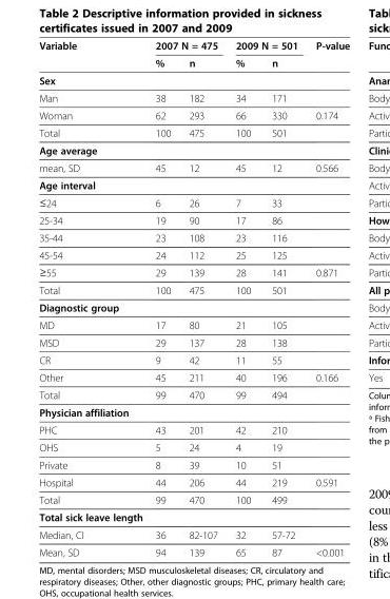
<table><thead><tr><td rowspan="2">Variable</td><td colspan="2">2007 N = 475</td><td colspan="2">2009 N = 501</td><td rowspan="2">P-value</td></tr><tr><td>%</td><td>n</td><td>%</td><td>n</td></tr></thead><tbody><tr><td colspan="6">Sex</td></tr><tr><td>Man</td><td>38</td><td>182</td><td>34</td><td>171</td><td></td></tr><tr><td>Woman</td><td>62</td><td>293</td><td>66</td><td>330</td><td>0.174</td></tr><tr><td>Total</td><td>100</td><td>475</td><td>100</td><td>501</td><td></td></tr><tr><td colspan="6">Age average</td></tr><tr><td>mean, SD</td><td>45</td><td>12</td><td>45</td><td>12</td><td>0.566</td></tr><tr><td colspan="6">Age interval</td></tr><tr><td>≤24</td><td>6</td><td>26</td><td>7</td><td>33</td><td></td></tr><tr><td>25-34</td><td>19</td><td>90</td><td>17</td><td>86</td><td></td></tr><tr><td>35-44</td><td>23</td><td>108</td><td>23</td><td>116</td><td></td></tr><tr><td>45-54</td><td>24</td><td>112</td><td>25</td><td>125</td><td></td></tr><tr><td>≥55</td><td>29</td><td>139</td><td>28</td><td>141</td><td>0.871</td></tr><tr><td>Total</td><td>100</td><td>475</td><td>100</td><td>501</td><td></td></tr><tr><td colspan="6">Diagnostic group</td></tr><tr><td>MD</td><td>17</td><td>80</td><td>21</td><td>105</td><td></td></tr><tr><td>MSD</td><td>29</td><td>137</td><td>28</td><td>138</td><td></td></tr><tr><td>CR</td><td>9</td><td>42</td><td>11</td><td>55</td><td></td></tr><tr><td>Other</td><td>45</td><td>211</td><td>40</td><td>196</td><td>0.166</td></tr><tr><td>Total</td><td>99</td><td>470</td><td>99</td><td>494</td><td></td></tr><tr><td colspan="6">Physician affiliation</td></tr><tr><td>PHC</td><td>43</td><td>201</td><td>42</td><td>210</td><td></td></tr><tr><td>OHS</td><td>5</td><td>24</td><td>4</td><td>19</td><td></td></tr><tr><td>Private</td><td>8</td><td>39</td><td>10</td><td>51</td><td></td></tr><tr><td>Hospital</td><td>44</td><td>206</td><td>44</td><td>219</td><td>0.591</td></tr><tr><td>Total</td><td>99</td><td>470</td><td>100</td><td>499</td><td></td></tr><tr><td colspan="6">Total sick leave length</td></tr><tr><td>Median, CI</td><td>36</td><td>82-107</td><td>32</td><td>57-72</td><td></td></tr><tr><td>Mean, SD</td><td>94</td><td>139</td><td>65</td><td>87</td><td>&lt;0.001</td></tr></tbody></table>